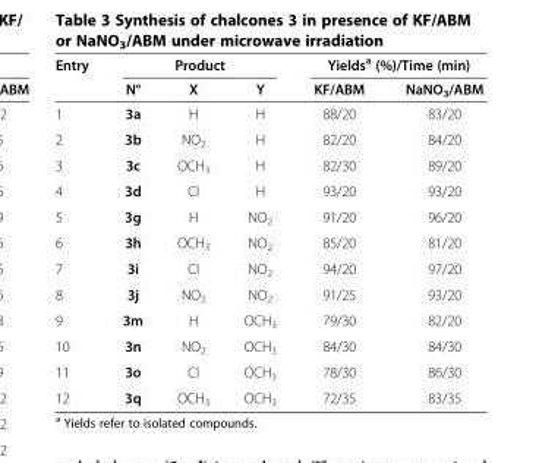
<table><thead><tr><td rowspan="2">Entry</td><td rowspan="2">N°</td><td rowspan="2">Product X</td><td rowspan="2">Y</td><td colspan="2">Yields<sup>a</sup> (%)/Time (min)</td></tr><tr><td>KF/ABM</td><td>NaNO<sub>3</sub>/ABM</td></tr></thead><tbody><tr><td>1</td><td>3a</td><td>H</td><td>H</td><td>88/20</td><td>83/20</td></tr><tr><td>2</td><td>3b</td><td>NO<sub>2</sub></td><td>H</td><td>82/20</td><td>84/20</td></tr><tr><td>3</td><td>3c</td><td>OCH<sub>3</sub></td><td>H</td><td>82/30</td><td>89/20</td></tr><tr><td>4</td><td>3d</td><td>Cl</td><td>H</td><td>93/20</td><td>93/20</td></tr><tr><td>5</td><td>3g</td><td>H</td><td>NO<sub>2</sub></td><td>91/20</td><td>96/20</td></tr><tr><td>6</td><td>3h</td><td>OCH<sub>3</sub></td><td>NO<sub>2</sub></td><td>85/20</td><td>81/20</td></tr><tr><td>7</td><td>3i</td><td>Cl</td><td>NO<sub>2</sub></td><td>94/20</td><td>97/20</td></tr><tr><td>8</td><td>3j</td><td>NO<sub>2</sub></td><td>NO<sub>2</sub></td><td>91/25</td><td>93/20</td></tr><tr><td>9</td><td>3m</td><td>H</td><td>OCH<sub>3</sub></td><td>79/30</td><td>82/20</td></tr><tr><td>10</td><td>3n</td><td>NO<sub>2</sub></td><td>OCH<sub>3</sub></td><td>84/30</td><td>84/30</td></tr><tr><td>11</td><td>3o</td><td>Cl</td><td>OCH<sub>3</sub></td><td>78/30</td><td>86/30</td></tr><tr><td>12</td><td>3q</td><td>OCH<sub>3</sub></td><td>OCH<sub>3</sub></td><td>72/35</td><td>83/35</td></tr></tbody></table>